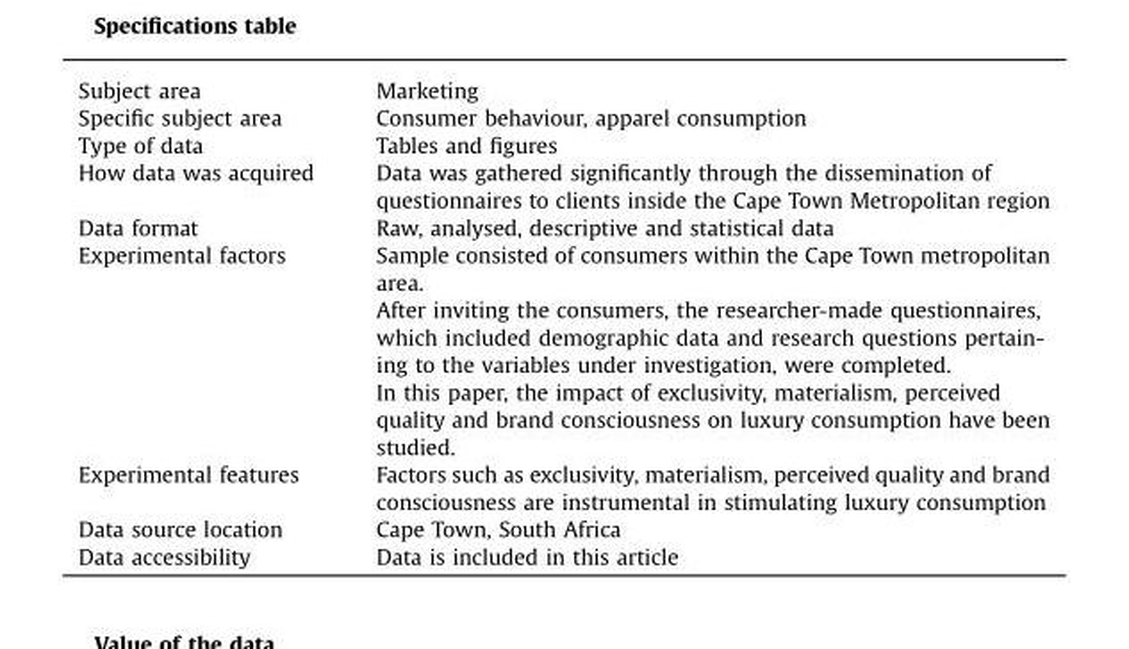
<table><tbody><tr><td>Subject area</td><td>Marketing</td></tr><tr><td>Specific subject area</td><td>Consumer behaviour, apparel consumption</td></tr><tr><td>Type of data</td><td>Tables and figures</td></tr><tr><td>How data was acquired</td><td>Data was gathered significantly through the dissemination of questionnaires to clients inside the Cape Town Metropolitan region</td></tr><tr><td>Data format</td><td>Raw, analysed, descriptive and statistical data</td></tr><tr><td rowspan="3">Experimental factors</td><td>Sample consisted of consumers within the Cape Town metropolitan area.</td></tr><tr><td>After inviting the consumers, the researcher-made questionnaires, which included demographic data and research questions pertain- ing to the variables under investigation, were completed.</td></tr><tr><td>In this paper, the impact of exclusivity, materialism, perceived quality and brand consciousness on luxury consumption have been studied.</td></tr><tr><td>Experimental features</td><td>Factors such as exclusivity, materialism, perceived quality and brand consciousness are instrumental in stimulating luxury consumption</td></tr><tr><td>Data source location</td><td>Cape Town, South Africa</td></tr><tr><td>Data accessibility</td><td>Data is included in this article</td></tr></tbody></table>